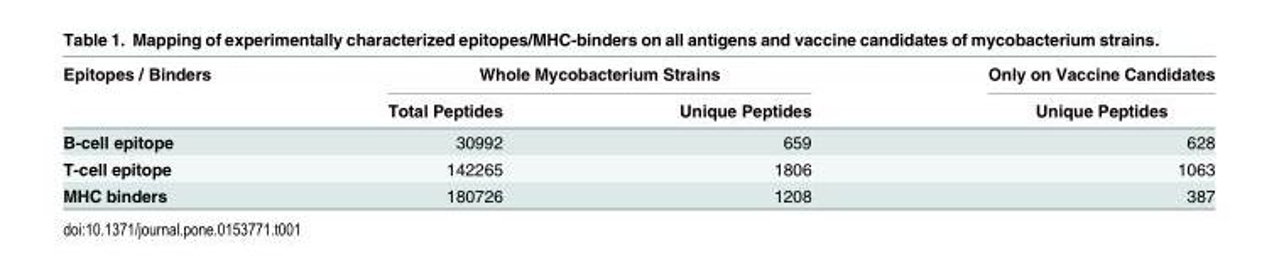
<table><thead><tr><td rowspan="2">Epitopes / Binders</td><td colspan="2">Whole Mycobacterium Strains</td><td rowspan="2">Only on Vaccine Candidates Unique Peptides</td></tr><tr><td>Total Peptides</td><td>Unique Peptides</td></tr></thead><tbody><tr><td>B-cell epitope</td><td>30992</td><td>659</td><td>628</td></tr><tr><td>T-cell epitope</td><td>142265</td><td>1806</td><td>1063</td></tr><tr><td>MHC binders</td><td>180726</td><td>1208</td><td>387</td></tr></tbody></table>